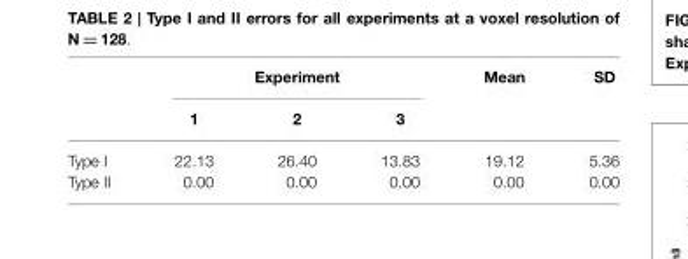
<table><thead><tr><td rowspan="2"></td><td colspan="3">Experiment</td><td rowspan="2">Mean</td><td rowspan="2">SD</td></tr><tr><td>1</td><td>2</td><td>3</td></tr></thead><tbody><tr><td>Type I</td><td>22.13</td><td>26.40</td><td>13.83</td><td>19.12</td><td>5.36</td></tr><tr><td>Type II</td><td>0.00</td><td>0.00</td><td>0.00</td><td>0.00</td><td>0.00</td></tr></tbody></table>